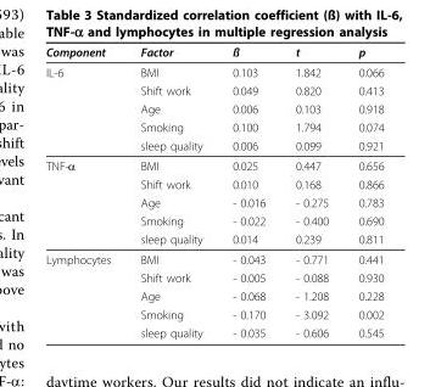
<table><thead><tr><td>Component</td><td>Factor</td><td>ß</td><td>t</td><td>p</td></tr></thead><tbody><tr><td rowspan="5">IL-6</td><td>BMI</td><td>0.103</td><td>1.842</td><td>0.066</td></tr><tr><td>Shift work</td><td>0.049</td><td>0.820</td><td>0.413</td></tr><tr><td>Age</td><td>0.006</td><td>0.103</td><td>0.918</td></tr><tr><td>Smoking</td><td>0.100</td><td>1.794</td><td>0.074</td></tr><tr><td>sleep quality</td><td>0.006</td><td>0.099</td><td>0.921</td></tr><tr><td rowspan="5">TNF-α</td><td>BMI</td><td>0.025</td><td>0.447</td><td>0.656</td></tr><tr><td>Shift work</td><td>0.010</td><td>0.168</td><td>0.866</td></tr><tr><td>Age</td><td>- 0.016</td><td>- 0.275</td><td>0.783</td></tr><tr><td>Smoking</td><td>- 0.022</td><td>- 0.400</td><td>0.690</td></tr><tr><td>sleep quality</td><td>0.014</td><td>0.239</td><td>0.811</td></tr><tr><td rowspan="5">Lymphocytes</td><td>BMI</td><td>- 0.043</td><td>- 0.771</td><td>0.441</td></tr><tr><td>Shift work</td><td>- 0.005</td><td>- 0.088</td><td>0.930</td></tr><tr><td>Age</td><td>- 0.068</td><td>- 1.208</td><td>0.228</td></tr><tr><td>Smoking</td><td>- 0.170</td><td>- 3.092</td><td>0.002</td></tr><tr><td>sleep quality</td><td>- 0.035</td><td>- 0.606</td><td>0.545</td></tr></tbody></table>